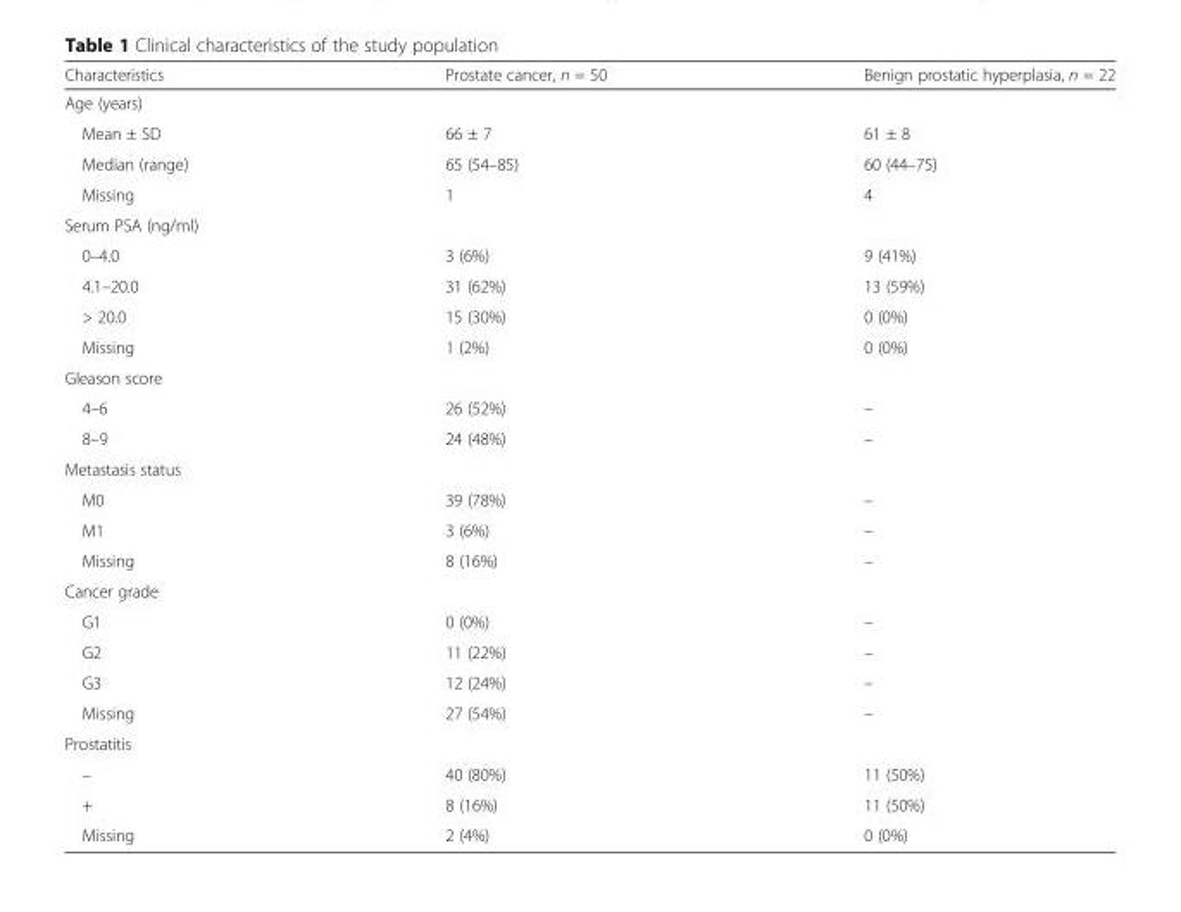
<table><thead><tr><td>Characteristics</td><td>Prostate cancer, n = 50</td><td>Benign prostatic hyperplasia, n = 22</td></tr></thead><tbody><tr><td colspan="3">Age (years)</td></tr><tr><td>Mean ± SD</td><td>66 ± 7</td><td>61 ± 8</td></tr><tr><td>Median (range)</td><td>65 (54–85)</td><td>60 (44–75)</td></tr><tr><td>Missing</td><td>1</td><td>4</td></tr><tr><td colspan="3">Serum PSA (ng/ml)</td></tr><tr><td>0–4.0</td><td>3 (6%)</td><td>9 (41%)</td></tr><tr><td>4.1–20.0</td><td>31 (62%)</td><td>13 (59%)</td></tr><tr><td>&gt; 20.0</td><td>15 (30%)</td><td>0 (0%)</td></tr><tr><td>Missing</td><td>1 (2%)</td><td>0 (0%)</td></tr><tr><td colspan="3">Gleason score</td></tr><tr><td>4–6</td><td>26 (52%)</td><td>–</td></tr><tr><td>8–9</td><td>24 (48%)</td><td>–</td></tr><tr><td colspan="3">Metastasis status</td></tr><tr><td>M0</td><td>39 (78%)</td><td>–</td></tr><tr><td>M1</td><td>3 (6%)</td><td>–</td></tr><tr><td>Missing</td><td>8 (16%)</td><td>–</td></tr><tr><td colspan="3">Cancer grade</td></tr><tr><td>G1</td><td>0 (0%)</td><td>–</td></tr><tr><td>G2</td><td>11 (22%)</td><td>–</td></tr><tr><td>G3</td><td>12 (24%)</td><td>–</td></tr><tr><td>Missing</td><td>27 (54%)</td><td>–</td></tr><tr><td colspan="3">Prostatitis</td></tr><tr><td>–</td><td>40 (80%)</td><td>11 (50%)</td></tr><tr><td>+</td><td>8 (16%)</td><td>11 (50%)</td></tr><tr><td>Missing</td><td>2 (4%)</td><td>0 (0%)</td></tr></tbody></table>